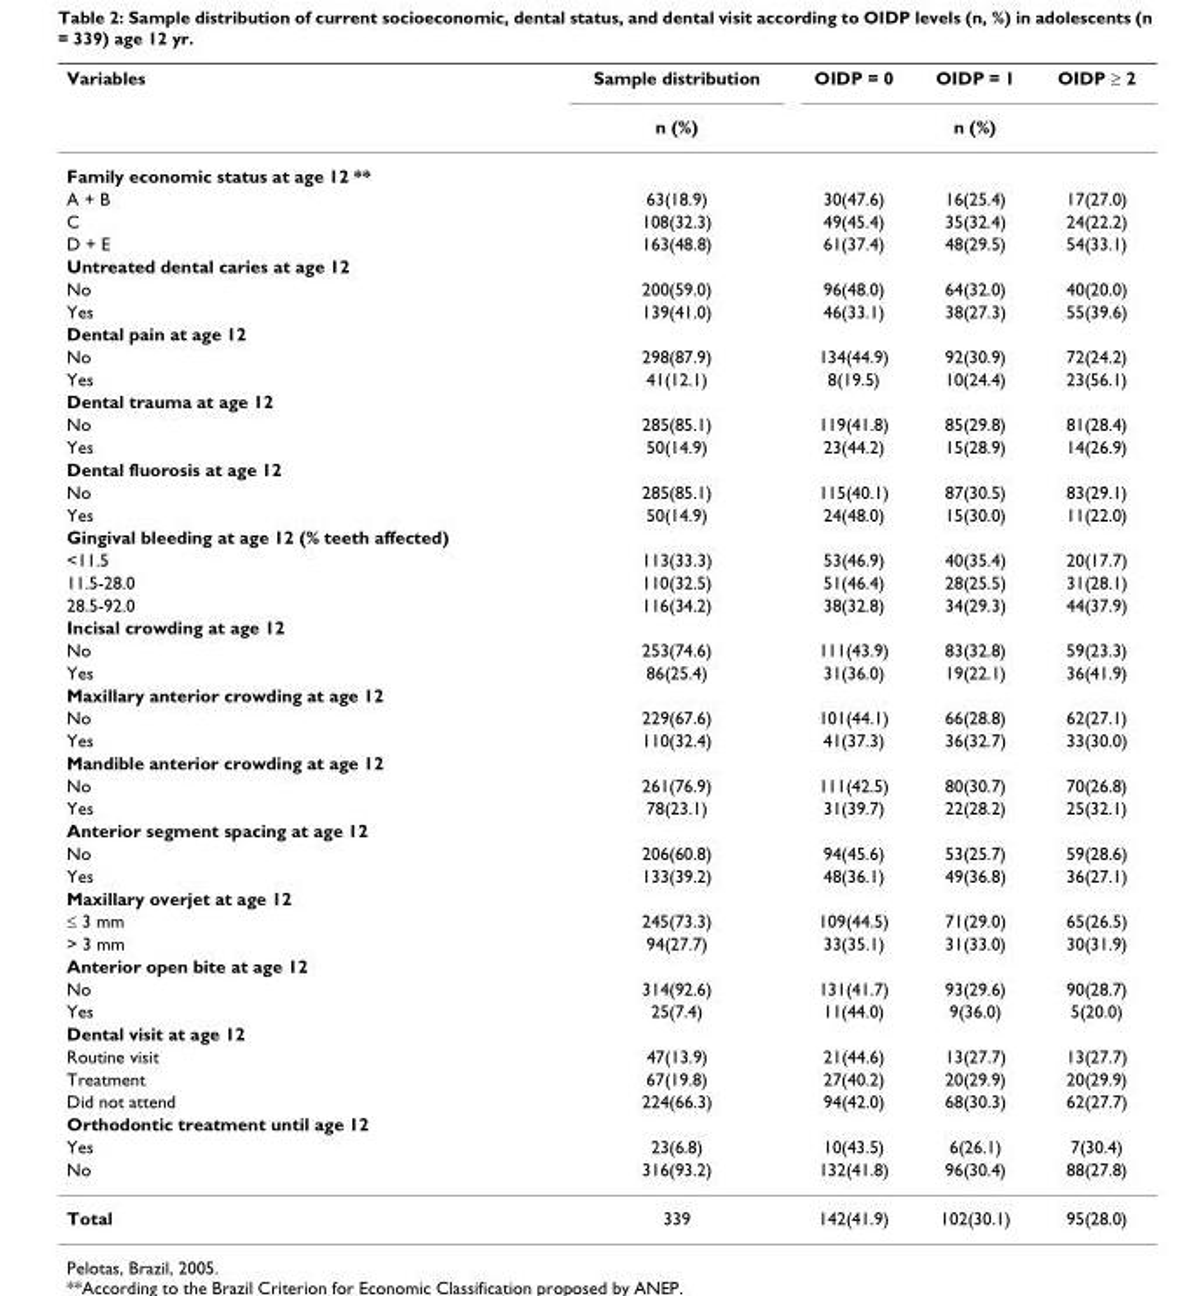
<table><thead><tr><td rowspan="2">Variables</td><td rowspan="2">Sample distribution n (%)</td><td>OIDP = 0</td><td>OIDP = 1</td><td>OIDP ≥ 2</td></tr><tr><td colspan="3">n (%)</td></tr></thead><tbody><tr><td colspan="5">Family economic status at age 12 **</td></tr><tr><td>A + B</td><td>63(18.9)</td><td>30(47.6)</td><td>16(25.4)</td><td>17(27.0)</td></tr><tr><td>C</td><td>108(32.3)</td><td>49(45.4)</td><td>35(32.4)</td><td>24(22.2)</td></tr><tr><td>D + E</td><td>163(48.8)</td><td>61(37.4)</td><td>48(29.5)</td><td>54(33.1)</td></tr><tr><td colspan="5">Untreated dental caries at age 12</td></tr><tr><td>No</td><td>200(59.0)</td><td>96(48.0)</td><td>64(32.0)</td><td>40(20.0)</td></tr><tr><td>Yes</td><td>139(41.0)</td><td>46(33.1)</td><td>38(27.3)</td><td>55(39.6)</td></tr><tr><td colspan="5">Dental pain at age 12</td></tr><tr><td>No</td><td>298(87.9)</td><td>134(44.9)</td><td>92(30.9)</td><td>72(24.2)</td></tr><tr><td>Yes</td><td>41(12.1)</td><td>8(19.5)</td><td>10(24.4)</td><td>23(56.1)</td></tr><tr><td colspan="5">Dental trauma at age 12</td></tr><tr><td>No</td><td>285(85.1)</td><td>119(41.8)</td><td>85(29.8)</td><td>81(28.4)</td></tr><tr><td>Yes</td><td>50(14.9)</td><td>23(44.2)</td><td>15(28.9)</td><td>14(26.9)</td></tr><tr><td colspan="5">Dental fluorosis at age 12</td></tr><tr><td>No</td><td>285(85.1)</td><td>115(40.1)</td><td>87(30.5)</td><td>83(29.1)</td></tr><tr><td>Yes</td><td>50(14.9)</td><td>24(48.0)</td><td>15(30.0)</td><td>11(22.0)</td></tr><tr><td colspan="5">Gingival bleeding at age 12 (% teeth affected)</td></tr><tr><td>&lt;11.5</td><td>113(33.3)</td><td>53(46.9)</td><td>40(35.4)</td><td>20(17.7)</td></tr><tr><td>11.5-28.0</td><td>110(32.5)</td><td>51(46.4)</td><td>28(25.5)</td><td>31(28.1)</td></tr><tr><td>28.5-92.0</td><td>116(34.2)</td><td>38(32.8)</td><td>34(29.3)</td><td>44(37.9)</td></tr><tr><td colspan="5">Incisal crowding at age 12</td></tr><tr><td>No</td><td>253(74.6)</td><td>111(43.9)</td><td>83(32.8)</td><td>59(23.3)</td></tr><tr><td>Yes</td><td>86(25.4)</td><td>31(36.0)</td><td>19(22.1)</td><td>36(41.9)</td></tr><tr><td colspan="5">Maxillary anterior crowding at age 12</td></tr><tr><td>No</td><td>229(67.6)</td><td>101(44.1)</td><td>66(28.8)</td><td>62(27.1)</td></tr><tr><td>Yes</td><td>110(32.4)</td><td>41(37.3)</td><td>36(32.7)</td><td>33(30.0)</td></tr><tr><td colspan="5">Mandible anterior crowding at age 12</td></tr><tr><td>No</td><td>261(76.9)</td><td>111(42.5)</td><td>80(30.7)</td><td>70(26.8)</td></tr><tr><td>Yes</td><td>78(23.1)</td><td>31(39.7)</td><td>22(28.2)</td><td>25(32.1)</td></tr><tr><td colspan="5">Anterior segment spacing at age 12</td></tr><tr><td>No</td><td>206(60.8)</td><td>94(45.6)</td><td>53(25.7)</td><td>59(28.6)</td></tr><tr><td>Yes</td><td>133(39.2)</td><td>48(36.1)</td><td>49(36.8)</td><td>36(27.1)</td></tr><tr><td colspan="5">Maxillary overjet at age 12</td></tr><tr><td>≤ 3 mm</td><td>245(73.3)</td><td>109(44.5)</td><td>71(29.0)</td><td>65(26.5)</td></tr><tr><td>&gt; 3 mm</td><td>94(27.7)</td><td>33(35.1)</td><td>31(33.0)</td><td>30(31.9)</td></tr><tr><td colspan="5">Anterior open bite at age 12</td></tr><tr><td>No</td><td>314(92.6)</td><td>131(41.7)</td><td>93(29.6)</td><td>90(28.7)</td></tr><tr><td>Yes</td><td>25(7.4)</td><td>11(44.0)</td><td>9(36.0)</td><td>5(20.0)</td></tr><tr><td colspan="5">Dental visit at age 12</td></tr><tr><td>Routine visit</td><td>47(13.9)</td><td>21(44.6)</td><td>13(27.7)</td><td>13(27.7)</td></tr><tr><td>Treatment</td><td>67(19.8)</td><td>27(40.2)</td><td>20(29.9)</td><td>20(29.9)</td></tr><tr><td>Did not attend</td><td>224(66.3)</td><td>94(42.0)</td><td>68(30.3)</td><td>62(27.7)</td></tr><tr><td colspan="5">Orthodontic treatment until age 12</td></tr><tr><td>Yes</td><td>23(6.8)</td><td>10(43.5)</td><td>6(26.1)</td><td>7(30.4)</td></tr><tr><td>No</td><td>316(93.2)</td><td>132(41.8)</td><td>96(30.4)</td><td>88(27.8)</td></tr><tr><td>Total</td><td>339</td><td>142(41.9)</td><td>102(30.1)</td><td>95(28.0)</td></tr></tbody></table>